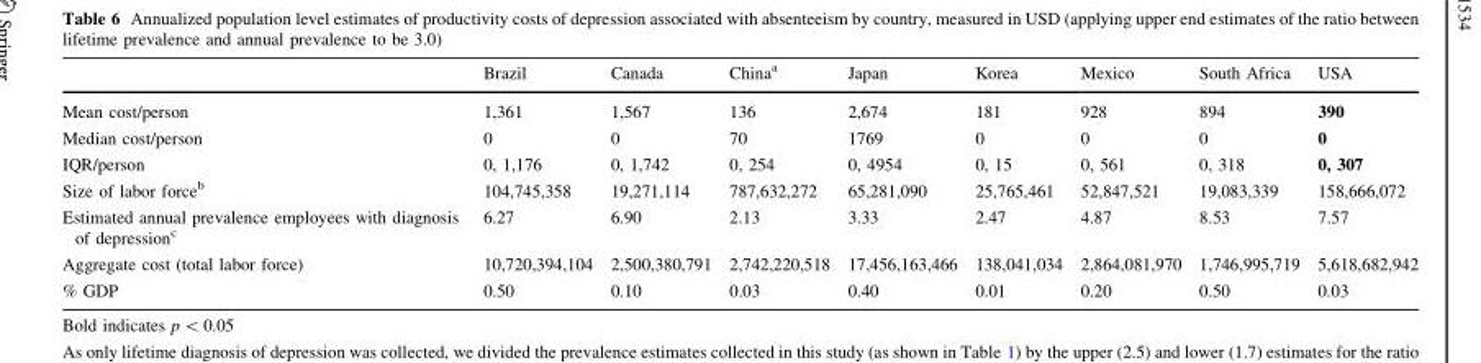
<table><thead><tr><td></td><td>Brazil</td><td>Canada</td><td>China<sup>a</sup></td><td>Japan</td><td>Korea</td><td>Mexico</td><td>South Africa</td><td>USA</td></tr></thead><tbody><tr><td>Mean cost/person</td><td>1,361</td><td>1,567</td><td>136</td><td>2,674</td><td>181</td><td>928</td><td>894</td><td>390</td></tr><tr><td>Median cost/person</td><td>0</td><td>0</td><td>70</td><td>1769</td><td>0</td><td>0</td><td>0</td><td>0</td></tr><tr><td>IQR/person</td><td>0, 1,176</td><td>0, 1,742</td><td>0, 254</td><td>0, 4954</td><td>0, 15</td><td>0, 561</td><td>0, 318</td><td>0, 307</td></tr><tr><td>Size of labor force<sup>b</sup></td><td>104,745,358</td><td>19,271,114</td><td>787,632,272</td><td>65,281,090</td><td>25,765,461</td><td>52,847,521</td><td>19,083,339</td><td>158,666,072</td></tr><tr><td>Estimated annual prevalence employees with diagnosis of depression<sup>c</sup></td><td>6.27</td><td>6.90</td><td>2.13</td><td>3.33</td><td>2.47</td><td>4.87</td><td>8.53</td><td>7.57</td></tr><tr><td>Aggregate cost (total labor force)</td><td>10,720,394,104</td><td>2,500,380,791</td><td>2,742,220,518</td><td>17,456,163,466</td><td>138,041,034</td><td>2,864,081,970</td><td>1,746,995,719</td><td>5,618,682,942</td></tr><tr><td>% GDP</td><td>0.50</td><td>0.10</td><td>0.03</td><td>0.40</td><td>0.01</td><td>0.20</td><td>0.50</td><td>0.03</td></tr></tbody></table>